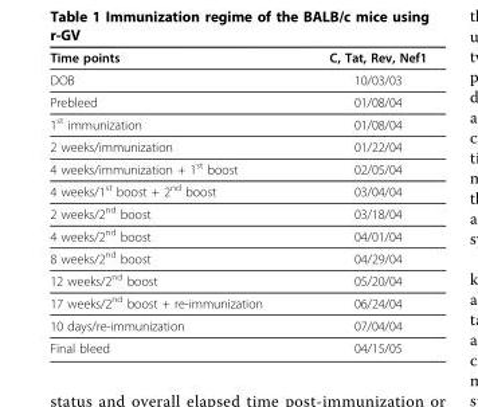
<table><thead><tr><td>Time points</td><td>C, Tat, Rev, Nef1</td></tr></thead><tbody><tr><td>DOB</td><td>10/03/03</td></tr><tr><td>Prebleed</td><td>01/08/04</td></tr><tr><td>1<sup>st</sup> immunization</td><td>01/08/04</td></tr><tr><td>2 weeks/immunization</td><td>01/22/04</td></tr><tr><td>4 weeks/immunization + 1<sup>st</sup> boost</td><td>02/05/04</td></tr><tr><td>4 weeks/1<sup>st</sup> boost + 2<sup>nd</sup> boost</td><td>03/04/04</td></tr><tr><td>2 weeks/2<sup>nd</sup> boost</td><td>03/18/04</td></tr><tr><td>4 weeks/2<sup>nd</sup> boost</td><td>04/01/04</td></tr><tr><td>8 weeks/2<sup>nd</sup> boost</td><td>04/29/04</td></tr><tr><td>12 weeks/2<sup>nd</sup> boost</td><td>05/20/04</td></tr><tr><td>17 weeks/2<sup>nd</sup> boost + re-immunization</td><td>06/24/04</td></tr><tr><td>10 days/re-immunization</td><td>07/04/04</td></tr><tr><td>Final bleed</td><td>04/15/05</td></tr></tbody></table>